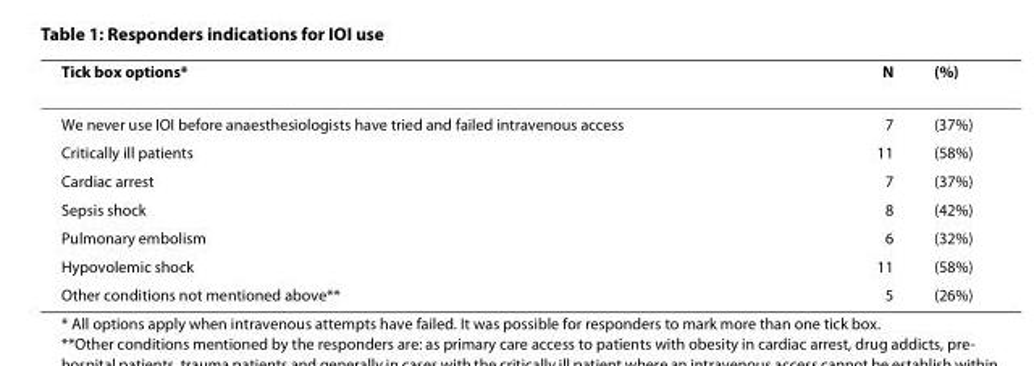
<table><thead><tr><td>Tick box options*</td><td>N</td><td>(%)</td></tr></thead><tbody><tr><td>We never use IOI before anaesthesiologists have tried and failed intravenous access</td><td>7</td><td>(37%)</td></tr><tr><td>Critically ill patients</td><td>11</td><td>(58%)</td></tr><tr><td>Cardiac arrest</td><td>7</td><td>(37%)</td></tr><tr><td>Sepsis shock</td><td>8</td><td>(42%)</td></tr><tr><td>Pulmonary embolism</td><td>6</td><td>(32%)</td></tr><tr><td>Hypovolemic shock</td><td>11</td><td>(58%)</td></tr><tr><td>Other conditions not mentioned above**</td><td>5</td><td>(26%)</td></tr></tbody></table>